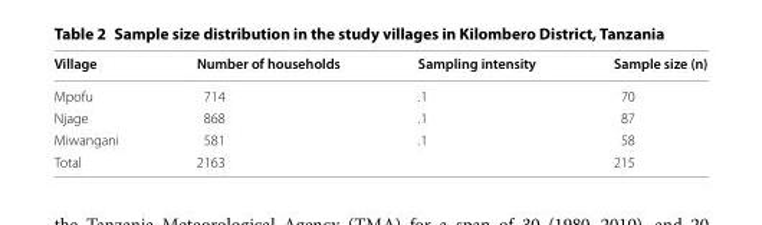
<table><thead><tr><td>Village</td><td>Number of households</td><td>Sampling intensity</td><td>Sample size (n)</td></tr></thead><tbody><tr><td>Mpofu</td><td>714</td><td>.1</td><td>70</td></tr><tr><td>Njage</td><td>868</td><td>.1</td><td>87</td></tr><tr><td>Miwangani</td><td>581</td><td>.1</td><td>58</td></tr><tr><td>Total</td><td>2163</td><td></td><td>215</td></tr></tbody></table>